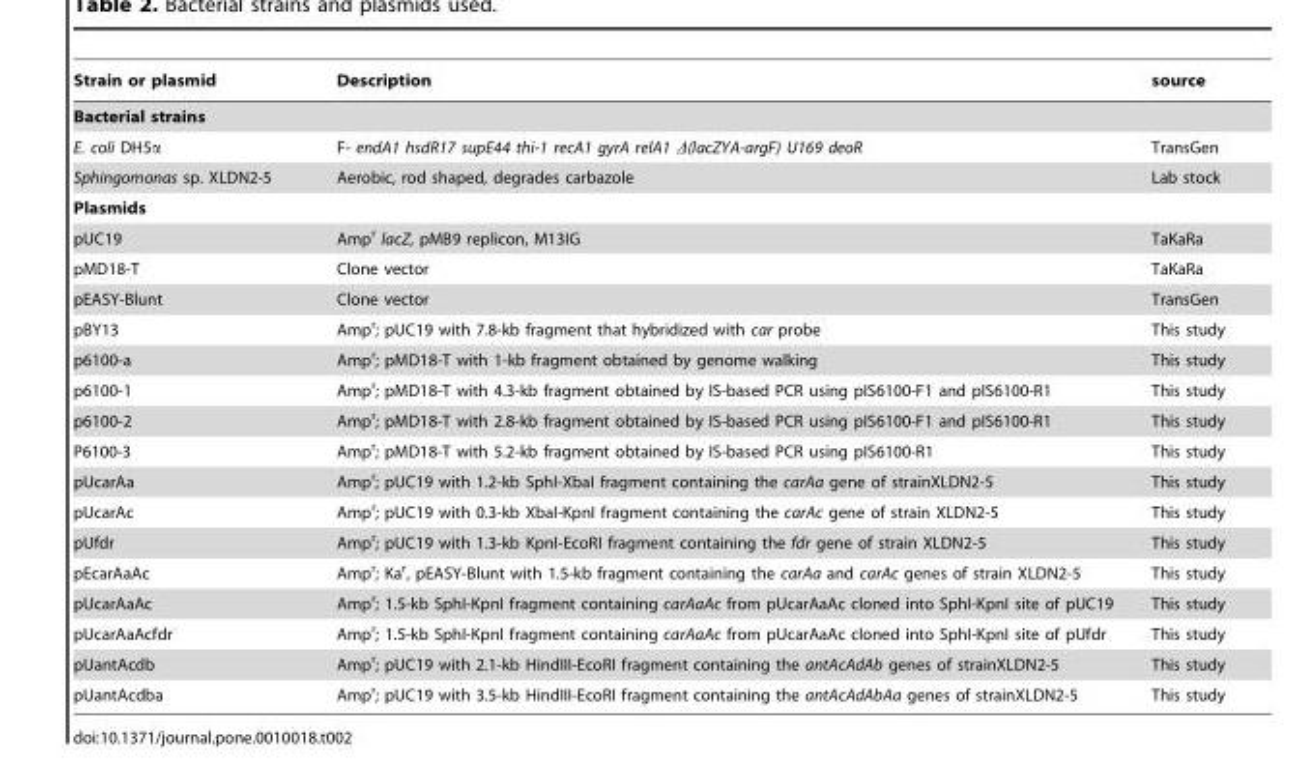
<table><thead><tr><td>Strain or plasmid</td><td>Description</td><td>source</td></tr></thead><tbody><tr><td colspan="3">Bacterial strains</td></tr><tr><td>E. coli DH5α</td><td>F- endA1 hsdR17 supE44 thi-1 recA1 gyrA relA1 Δ(lacZYA-argF) U169 deoR</td><td>TransGen</td></tr><tr><td>Sphingomonas sp. XLDN2-5</td><td>Aerobic, rod shaped, degrades carbazole</td><td>Lab stock</td></tr><tr><td colspan="3">Plasmids</td></tr><tr><td>pUC19</td><td>Amp<sup>r</sup> lacZ, pMB9 replicon, M13IG</td><td>TaKaRa</td></tr><tr><td>pMD18-T</td><td>Clone vector</td><td>TaKaRa</td></tr><tr><td>pEASY-Blunt</td><td>Clone vector</td><td>TransGen</td></tr><tr><td>pBY13</td><td>Amp<sup>r</sup>; pUC19 with 7.8-kb fragment that hybridized with car probe</td><td>This study</td></tr><tr><td>p6100-a</td><td>Amp<sup>r</sup>; pMD18-T with 1-kb fragment obtained by genome walking</td><td>This study</td></tr><tr><td>p6100-1</td><td>Amp<sup>r</sup>; pMD18-T with 4.3-kb fragment obtained by IS-based PCR using pIS6100-F1 and pIS6100-R1</td><td>This study</td></tr><tr><td>p6100-2</td><td>Amp<sup>r</sup>; pMD18-T with 2.8-kb fragment obtained by IS-based PCR using pIS6100-F1 and pIS6100-R1</td><td>This study</td></tr><tr><td>P6100-3</td><td>Amp<sup>r</sup>; pMD18-T with 5.2-kb fragment obtained by IS-based PCR using pIS6100-R1</td><td>This study</td></tr><tr><td>pUcarAa</td><td>Amp<sup>r</sup>; pUC19 with 1.2-kb SphI-XbaI fragment containing the carAa gene of strainXLDN2-5</td><td>This study</td></tr><tr><td>pUcarAc</td><td>Amp<sup>r</sup>; pUC19 with 0.3-kb XbaI-KpnI fragment containing the carAc gene of strain XLDN2-5</td><td>This study</td></tr><tr><td>pUfdr</td><td>Amp<sup>r</sup>; pUC19 with 1.3-kb KpnI-EcoRI fragment containing the fdr gene of strain XLDN2-5</td><td>This study</td></tr><tr><td>pEcarAaAc</td><td>Amp<sup>r</sup>; Ka<sup>r</sup>, pEASY-Blunt with 1.5-kb fragment containing the carAa and carAc genes of strain XLDN2-5</td><td>This study</td></tr><tr><td>pUcarAaAc</td><td>Amp<sup>r</sup>; 1.5-kb SphI-KpnI fragment containing carAaAc from pUcarAaAc cloned into SphI-KpnI site of pUC19</td><td>This study</td></tr><tr><td>pUcarAaAcfdr</td><td>Amp<sup>r</sup>; 1.5-kb SphI-KpnI fragment containing carAaAc from pUcarAaAc cloned into SphI-KpnI site of pUfdr</td><td>This study</td></tr><tr><td>pUantAcdb</td><td>Amp<sup>r</sup>; pUC19 with 2.1-kb HindIII-EcoRI fragment containing the antAcAdAb genes of strainXLDN2-5</td><td>This study</td></tr><tr><td>pUantAcdba</td><td>Amp<sup>r</sup>; pUC19 with 3.5-kb HindIII-EcoRI fragment containing the antAcAdAbAa genes of strainXLDN2-5</td><td>This study</td></tr></tbody></table>